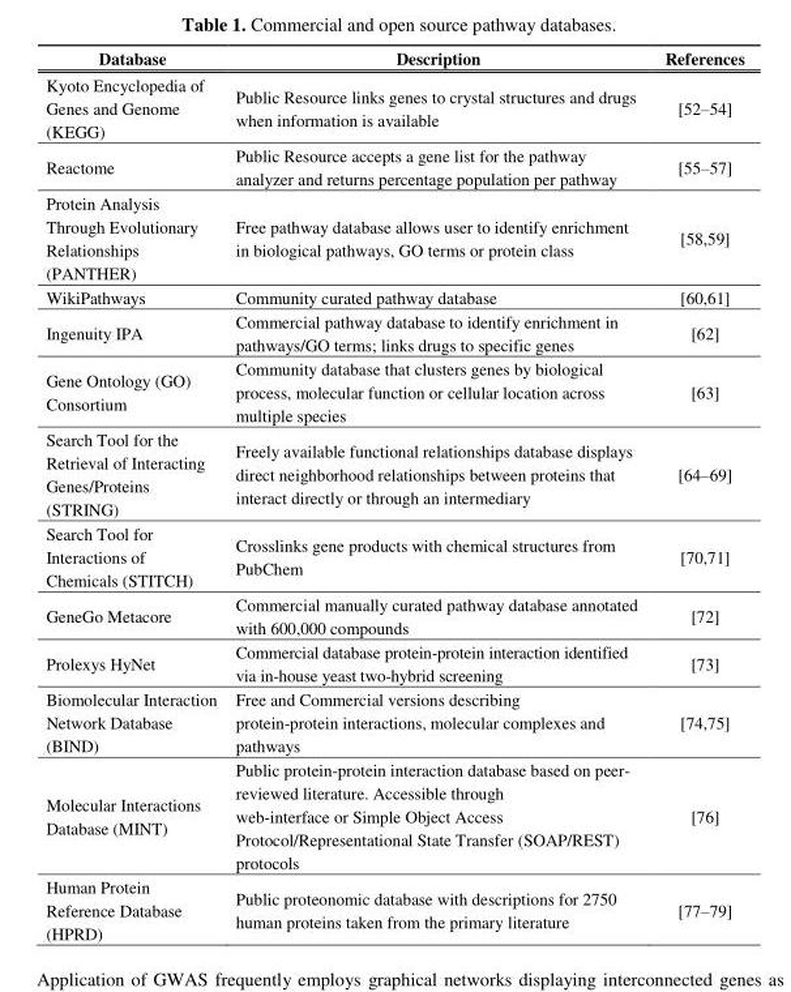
<table><thead><tr><td>Database</td><td>Description</td><td>References</td></tr></thead><tbody><tr><td>Kyoto Encyclopedia of Genes and Genome (KEGG)</td><td>Public Resource links genes to crystal structures and drugs when information is available</td><td>[52–54]</td></tr><tr><td>Reactome</td><td>Public Resource accepts a gene list for the pathway analyzer and returns percentage population per pathway</td><td>[55–57]</td></tr><tr><td>Protein Analysis Through Evolutionary Relationships (PANTHER)</td><td>Free pathway database allows user to identify enrichment in biological pathways, GO terms or protein class</td><td>[58,59]</td></tr><tr><td>WikiPathways</td><td>Community curated pathway database</td><td>[60,61]</td></tr><tr><td>Ingenuity IPA</td><td>Commercial pathway database to identify enrichment in pathways/GO terms; links drugs to specific genes</td><td>[62]</td></tr><tr><td>Gene Ontology (GO) Consortium</td><td>Community database that clusters genes by biological process, molecular function or cellular location across multiple species</td><td>[63]</td></tr><tr><td>Search Tool for the Retrieval of Interacting Genes/Proteins (STRING)</td><td>Freely available functional relationships database displays direct neighborhood relationships between proteins that interact directly or through an intermediary</td><td>[64–69]</td></tr><tr><td>Search Tool for Interactions of Chemicals (STITCH)</td><td>Crosslinks gene products with chemical structures from PubChem</td><td>[70,71]</td></tr><tr><td>GeneGo Metacore</td><td>Commercial manually curated pathway database annotated with 600,000 compounds</td><td>[72]</td></tr><tr><td>Prolexys HyNet</td><td>Commercial database protein-protein interaction identified via in-house yeast two-hybrid screening</td><td>[73]</td></tr><tr><td>Biomolecular Interaction Network Database (BIND)</td><td>Free and Commercial versions describing protein-protein interactions, molecular complexes and pathways</td><td>[74,75]</td></tr><tr><td>Molecular Interactions Database (MINT)</td><td>Public protein-protein interaction database based on peer- reviewed literature. Accessible through web-interface or Simple Object Access Protocol/Representational State Transfer (SOAP/REST) protocols</td><td>[76]</td></tr><tr><td>Human Protein Reference Database (HPRD)</td><td>Public proteonomic database with descriptions for 2750 human proteins taken from the primary literature</td><td>[77–79]</td></tr></tbody></table>